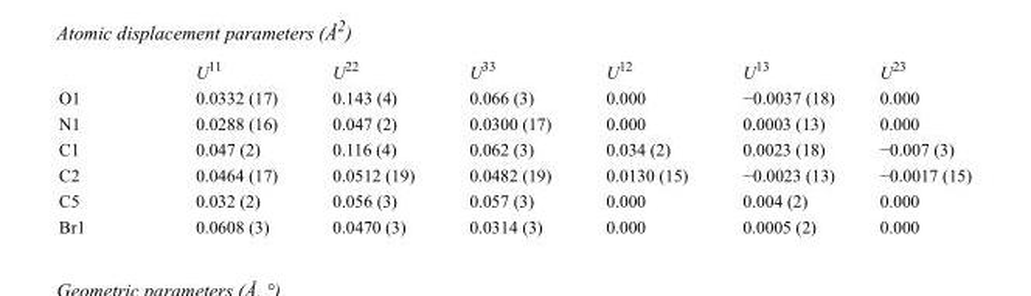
<table><thead><tr><td></td><td>U<sup>11</sup></td><td>U<sup>22</sup></td><td>U<sup>33</sup></td><td>U<sup>12</sup></td><td>U<sup>13</sup></td><td>U<sup>23</sup></td></tr></thead><tbody><tr><td>O1</td><td>0.0332 (17)</td><td>0.143 (4)</td><td>0.066 (3)</td><td>0.000</td><td>−0.0037 (18)</td><td>0.000</td></tr><tr><td>N1</td><td>0.0288 (16)</td><td>0.047 (2)</td><td>0.0300 (17)</td><td>0.000</td><td>0.0003 (13)</td><td>0.000</td></tr><tr><td>C1</td><td>0.047 (2)</td><td>0.116 (4)</td><td>0.062 (3)</td><td>0.034 (2)</td><td>0.0023 (18)</td><td>−0.007 (3)</td></tr><tr><td>C2</td><td>0.0464 (17)</td><td>0.0512 (19)</td><td>0.0482 (19)</td><td>0.0130 (15)</td><td>−0.0023 (13)</td><td>−0.0017 (15)</td></tr><tr><td>C5</td><td>0.032 (2)</td><td>0.056 (3)</td><td>0.057 (3)</td><td>0.000</td><td>0.004 (2)</td><td>0.000</td></tr><tr><td>Br1</td><td>0.0608 (3)</td><td>0.0470 (3)</td><td>0.0314 (3)</td><td>0.000</td><td>0.0005 (2)</td><td>0.000</td></tr></tbody></table>